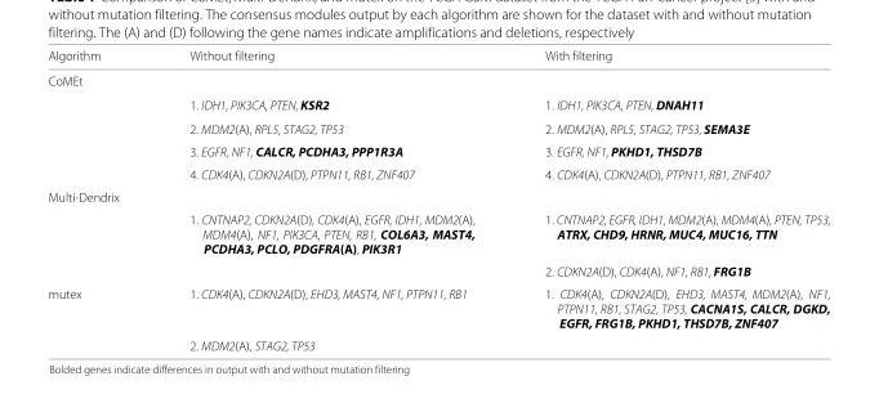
<table><thead><tr><td>Algorithm</td><td>Without filtering</td><td>With filtering</td></tr></thead><tbody><tr><td colspan="3">CoMEt</td></tr><tr><td></td><td>1. IDH1, PIK3CA, PTEN, KSR2</td><td>1. IDH1, PIK3CA, PTEN, DNAH11</td></tr><tr><td></td><td>2. MDM2(A), RPL5, STAG2, TP53</td><td>2. MDM2(A), RPL5, STAG2, TP53, SEMA3E</td></tr><tr><td></td><td>3. EGFR, NF1, CALCR, PCDHA3, PPP1R3A</td><td>3. EGFR, NF1, PKHD1, THSD7B</td></tr><tr><td></td><td>4. CDK4(A), CDKN2A(D), PTPN11, RB1, ZNF407</td><td>4. CDK4(A), CDKN2A(D), PTPN11, RB1, ZNF407</td></tr><tr><td colspan="3">Multi-Dendrix</td></tr><tr><td></td><td>1. CNTNAP2, CDKN2A(D), CDK4(A), EGFR, IDH1, MDM2(A), MDM4(A), NF1, PIK3CA, PTEN, RB1, COL6A3, MAST4, PCDHA3, PCLO, PDGFRA(A), PIK3R1</td><td>1. CNTNAP2, EGFR, IDH1, MDM2(A), MDM4(A), PTEN, TP53, ATRX, CHD9, HRNR, MUC4, MUC16, TTN</td></tr><tr><td></td><td></td><td>2. CDKN2A(D), CDK4(A), NF1, RB1, FRG1B</td></tr><tr><td rowspan="2">mutex</td><td>1. CDK4(A), CDKN2A(D), EHD3, MAST4, NF1, PTPN11, RB1</td><td>1. CDK4(A), CDKN2A(D), EHD3, MAST4, MDM2(A), NF1, PTPN11, RB1, STAG2, TP53, CACNA1S, CALCR, DGKD, EGFR, FRG1B, PKHD1, THSD7B, ZNF407</td></tr><tr><td>2. MDM2(A), STAG2, TP53</td><td></td></tr></tbody></table>